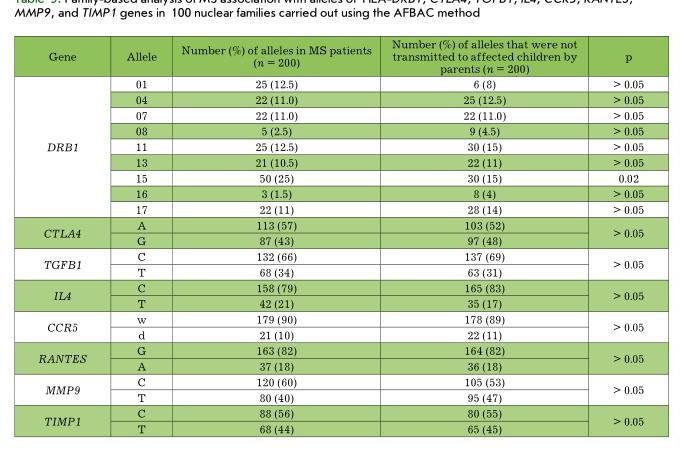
<table><tbody><tr><td>Gene</td><td>Allele</td><td>Number (%) of alleles in MS patients (n = 200)</td><td>Number (%) of alleles that were not transmitted to affected children by parents (n = 200)</td><td>p</td></tr><tr><td rowspan="9">DRB1</td><td>01</td><td>25 (12.5)</td><td>6 (8)</td><td>&gt; 0.05</td></tr><tr><td>04</td><td>22 (11.0)</td><td>25 (12.5)</td><td>&gt; 0.05</td></tr><tr><td>07</td><td>22 (11.0)</td><td>22 (11.0)</td><td>&gt; 0.05</td></tr><tr><td>08</td><td>5 (2.5)</td><td>9 (4.5)</td><td>&gt; 0.05</td></tr><tr><td>11</td><td>25 (12.5)</td><td>30 (15)</td><td>&gt; 0.05</td></tr><tr><td>13</td><td>21 (10.5)</td><td>22 (11)</td><td>&gt; 0.05</td></tr><tr><td>15</td><td>50 (25)</td><td>30 (15)</td><td>0.02</td></tr><tr><td>16</td><td>3 (1.5)</td><td>8 (4)</td><td>&gt; 0.05</td></tr><tr><td>17</td><td>22 (11)</td><td>28 (14)</td><td>&gt; 0.05</td></tr><tr><td rowspan="2">CTLA4</td><td>A</td><td>113 (57)</td><td>103 (52)</td><td rowspan="2">&gt; 0.05</td></tr><tr><td>G</td><td>87 (43)</td><td>97 (48)</td></tr><tr><td rowspan="2">TGFB1</td><td>C</td><td>132 (66)</td><td>137 (69)</td><td rowspan="2">&gt; 0.05</td></tr><tr><td>T</td><td>68 (34)</td><td>63 (31)</td></tr><tr><td rowspan="2">IL4</td><td>C</td><td>158 (79)</td><td>165 (83)</td><td rowspan="2">&gt; 0.05</td></tr><tr><td>T</td><td>42 (21)</td><td>35 (17)</td></tr><tr><td rowspan="2">CCR5</td><td>w</td><td>179 (90)</td><td>178 (89)</td><td rowspan="2">&gt; 0.05</td></tr><tr><td>d</td><td>21 (10)</td><td>22 (11)</td></tr><tr><td rowspan="2">RANTES</td><td>G</td><td>163 (82)</td><td>164 (82)</td><td rowspan="2">&gt; 0.05</td></tr><tr><td>A</td><td>37 (18)</td><td>36 (18)</td></tr><tr><td rowspan="2">MMP9</td><td>C</td><td>120 (60)</td><td>105 (53)</td><td rowspan="2">&gt; 0.05</td></tr><tr><td>T</td><td>80 (40)</td><td>95 (47)</td></tr><tr><td rowspan="2">TIMP1</td><td>C</td><td>88 (56)</td><td>80 (55)</td><td rowspan="2">&gt; 0.05</td></tr><tr><td>T</td><td>68 (44)</td><td>65 (45)</td></tr></tbody></table>